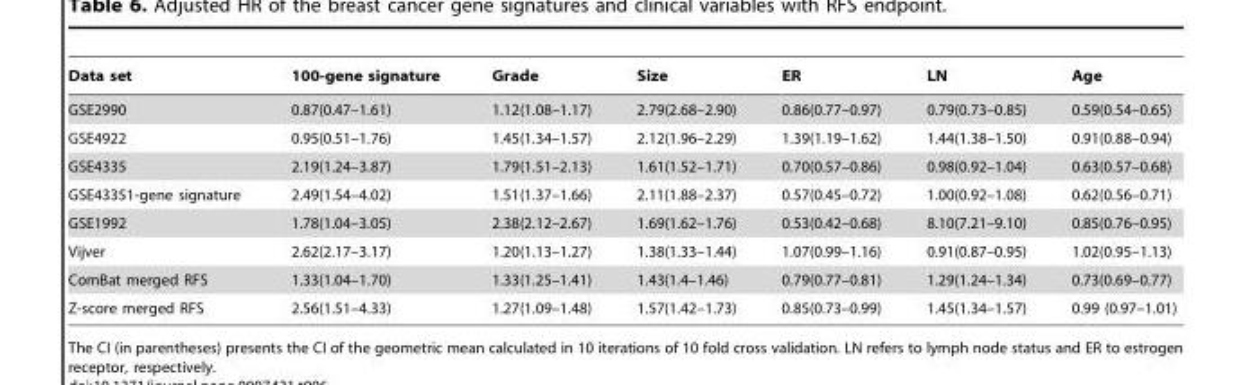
<table><thead><tr><td>Data set</td><td>100-gene signature</td><td>Grade</td><td>Size</td><td>ER</td><td>LN</td><td>Age</td></tr></thead><tbody><tr><td>GSE2990</td><td>0.87(0.47–1.61)</td><td>1.12(1.08–1.17)</td><td>2.79(2.68–2.90)</td><td>0.86(0.77–0.97)</td><td>0.79(0.73–0.85)</td><td>0.59(0.54–0.65)</td></tr><tr><td>GSE4922</td><td>0.95(0.51–1.76)</td><td>1.45(1.34–1.57)</td><td>2.12(1.96–2.29)</td><td>1.39(1.19–1.62)</td><td>1.44(1.38–1.50)</td><td>0.91(0.88–0.94)</td></tr><tr><td>GSE4335</td><td>2.19(1.24–3.87)</td><td>1.79(1.51–2.13)</td><td>1.61(1.52–1.71)</td><td>0.70(0.57–0.86)</td><td>0.98(0.92–1.04)</td><td>0.63(0.57–0.68)</td></tr><tr><td>GSE43351-gene signature</td><td>2.49(1.54–4.02)</td><td>1.51(1.37–1.66)</td><td>2.11(1.88–2.37)</td><td>0.57(0.45–0.72)</td><td>1.00(0.92–1.08)</td><td>0.62(0.56–0.71)</td></tr><tr><td>GSE1992</td><td>1.78(1.04–3.05)</td><td>2.38(2.12–2.67)</td><td>1.69(1.62–1.76)</td><td>0.53(0.42–0.68)</td><td>8.10(7.21–9.10)</td><td>0.85(0.76–0.95)</td></tr><tr><td>Vijver</td><td>2.62(2.17–3.17)</td><td>1.20(1.13–1.27)</td><td>1.38(1.33–1.44)</td><td>1.07(0.99–1.16)</td><td>0.91(0.87–0.95)</td><td>1.02(0.95–1.13)</td></tr><tr><td>ComBat merged RFS</td><td>1.33(1.04–1.70)</td><td>1.33(1.25–1.41)</td><td>1.43(1.4–1.46)</td><td>0.79(0.77–0.81)</td><td>1.29(1.24–1.34)</td><td>0.73(0.69–0.77)</td></tr><tr><td>Z-score merged RFS</td><td>2.56(1.51–4.33)</td><td>1.27(1.09–1.48)</td><td>1.57(1.42–1.73)</td><td>0.85(0.73–0.99)</td><td>1.45(1.34–1.57)</td><td>0.99 (0.97–1.01)</td></tr></tbody></table>